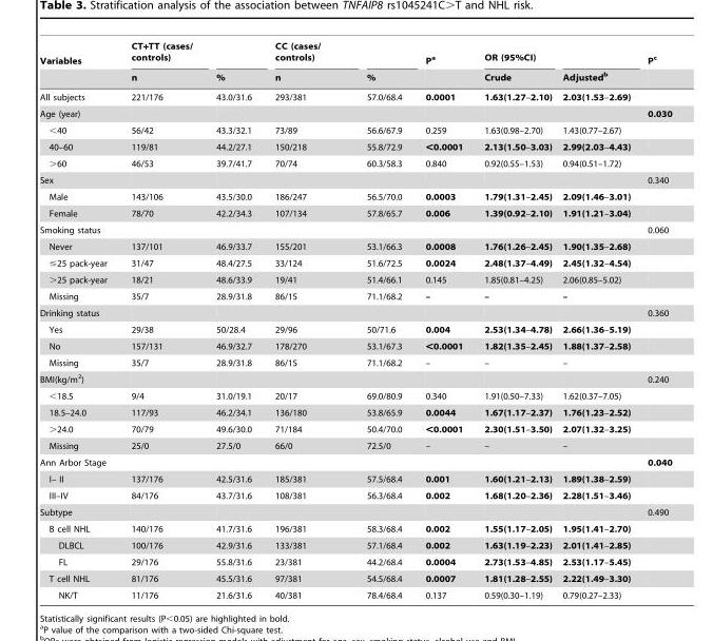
<table><thead><tr><td rowspan="2">Variables</td><td rowspan="2">CT+TT (cases/ controls) n</td><td rowspan="2">%</td><td rowspan="2">CC (cases/ controls) n</td><td rowspan="2">%</td><td rowspan="2">P<sup>a</sup></td><td rowspan="2">OR (95%CI) Crude</td><td rowspan="2">Adjusted<sup>b</sup></td><td rowspan="2">P<sup>c</sup></td></tr><tr></tr></thead><tbody><tr><td>All subjects</td><td>221/176</td><td>43.0/31.6</td><td>293/381</td><td>57.0/68.4</td><td>0.0001</td><td>1.63(1.27–2.10)</td><td>2.03(1.53–2.69)</td><td></td></tr><tr><td>Age (year)</td><td></td><td></td><td></td><td></td><td></td><td></td><td></td><td>0.030</td></tr><tr><td>&lt;40</td><td>56/42</td><td>43.3/32.1</td><td>73/89</td><td>56.6/67.9</td><td>0.259</td><td>1.63(0.98–2.70)</td><td>1.43(0.77–2.67)</td><td></td></tr><tr><td>40–60</td><td>119/81</td><td>44.2/27.1</td><td>150/218</td><td>55.8/72.9</td><td>&lt;0.0001</td><td>2.13(1.50–3.03)</td><td>2.99(2.03–4.43)</td><td></td></tr><tr><td>&gt;60</td><td>46/53</td><td>39.7/41.7</td><td>70/74</td><td>60.3/58.3</td><td>0.840</td><td>0.92(0.55–1.53)</td><td>0.94(0.51–1.72)</td><td></td></tr><tr><td>Sex</td><td></td><td></td><td></td><td></td><td></td><td></td><td></td><td>0.340</td></tr><tr><td>Male</td><td>143/106</td><td>43.5/30.0</td><td>186/247</td><td>56.5/70.0</td><td>0.0003</td><td>1.79(1.31–2.45)</td><td>2.09(1.46–3.01)</td><td></td></tr><tr><td>Female</td><td>78/70</td><td>42.2/34.3</td><td>107/134</td><td>57.8/65.7</td><td>0.006</td><td>1.39(0.92–2.10)</td><td>1.91(1.21–3.04)</td><td></td></tr><tr><td>Smoking status</td><td></td><td></td><td></td><td></td><td></td><td></td><td></td><td>0.060</td></tr><tr><td>Never</td><td>137/101</td><td>46.9/33.7</td><td>155/201</td><td>53.1/66.3</td><td>0.0008</td><td>1.76(1.26–2.45)</td><td>1.90(1.35–2.68)</td><td></td></tr><tr><td>≤25 pack-year</td><td>31/47</td><td>48.4/27.5</td><td>33/124</td><td>51.6/72.5</td><td>0.0024</td><td>2.48(1.37–4.49)</td><td>2.45(1.32–4.54)</td><td></td></tr><tr><td>&gt;25 pack-year</td><td>18/21</td><td>48.6/33.9</td><td>19/41</td><td>51.4/66.1</td><td>0.145</td><td>1.85(0.81–4.25)</td><td>2.06(0.85–5.02)</td><td></td></tr><tr><td>Missing</td><td>35/7</td><td>28.9/31.8</td><td>86/15</td><td>71.1/68.2</td><td>–</td><td>–</td><td>–</td><td></td></tr><tr><td>Drinking status</td><td></td><td></td><td></td><td></td><td></td><td></td><td></td><td>0.360</td></tr><tr><td>Yes</td><td>29/38</td><td>50/28.4</td><td>29/96</td><td>50/71.6</td><td>0.004</td><td>2.53(1.34–4.78)</td><td>2.66(1.36–5.19)</td><td></td></tr><tr><td>No</td><td>157/131</td><td>46.9/32.7</td><td>178/270</td><td>53.1/67.3</td><td>&lt;0.0001</td><td>1.82(1.35–2.45)</td><td>1.88(1.37–2.58)</td><td></td></tr><tr><td>Missing</td><td>35/7</td><td>28.9/31.8</td><td>86/15</td><td>71.1/68.2</td><td>–</td><td>–</td><td>–</td><td></td></tr><tr><td>BMI(kg/m<sup>2</sup>)</td><td></td><td></td><td></td><td></td><td></td><td></td><td></td><td>0.240</td></tr><tr><td>&lt;18.5</td><td>9/4</td><td>31.0/19.1</td><td>20/17</td><td>69.0/80.9</td><td>0.340</td><td>1.91(0.50–7.33)</td><td>1.62(0.37–7.05)</td><td></td></tr><tr><td>18.5–24.0</td><td>117/93</td><td>46.2/34.1</td><td>136/180</td><td>53.8/65.9</td><td>0.0044</td><td>1.67(1.17–2.37)</td><td>1.76(1.23–2.52)</td><td></td></tr><tr><td>&gt;24.0</td><td>70/79</td><td>49.6/30.0</td><td>71/184</td><td>50.4/70.0</td><td>&lt;0.0001</td><td>2.30(1.51–3.50)</td><td>2.07(1.32–3.25)</td><td></td></tr><tr><td>Missing</td><td>25/0</td><td>27.5/0</td><td>66/0</td><td>72.5/0</td><td>–</td><td>–</td><td>–</td><td></td></tr><tr><td>Ann Arbor Stage</td><td></td><td></td><td></td><td></td><td></td><td></td><td></td><td>0.040</td></tr><tr><td>I– II</td><td>137/176</td><td>42.5/31.6</td><td>185/381</td><td>57.5/68.4</td><td>0.001</td><td>1.60(1.21–2.13)</td><td>1.89(1.38–2.59)</td><td></td></tr><tr><td>III–IV</td><td>84/176</td><td>43.7/31.6</td><td>108/381</td><td>56.3/68.4</td><td>0.002</td><td>1.68(1.20–2.36)</td><td>2.28(1.51–3.46)</td><td></td></tr><tr><td>Subtype</td><td></td><td></td><td></td><td></td><td></td><td></td><td></td><td>0.490</td></tr><tr><td>B cell NHL</td><td>140/176</td><td>41.7/31.6</td><td>196/381</td><td>58.3/68.4</td><td>0.002</td><td>1.55(1.17–2.05)</td><td>1.95(1.41–2.70)</td><td></td></tr><tr><td>DLBCL</td><td>100/176</td><td>42.9/31.6</td><td>133/381</td><td>57.1/68.4</td><td>0.002</td><td>1.63(1.19–2.23)</td><td>2.01(1.41–2.85)</td><td></td></tr><tr><td>FL</td><td>29/176</td><td>55.8/31.6</td><td>23/381</td><td>44.2/68.4</td><td>0.0004</td><td>2.73(1.53–4.85)</td><td>2.53(1.17–5.45)</td><td></td></tr><tr><td>T cell NHL</td><td>81/176</td><td>45.5/31.6</td><td>97/381</td><td>54.5/68.4</td><td>0.0007</td><td>1.81(1.28–2.55)</td><td>2.22(1.49–3.30)</td><td></td></tr><tr><td>NK/T</td><td>11/176</td><td>21.6/31.6</td><td>40/381</td><td>78.4/68.4</td><td>0.137</td><td>0.59(0.30–1.19)</td><td>0.79(0.27–2.33)</td><td></td></tr></tbody></table>